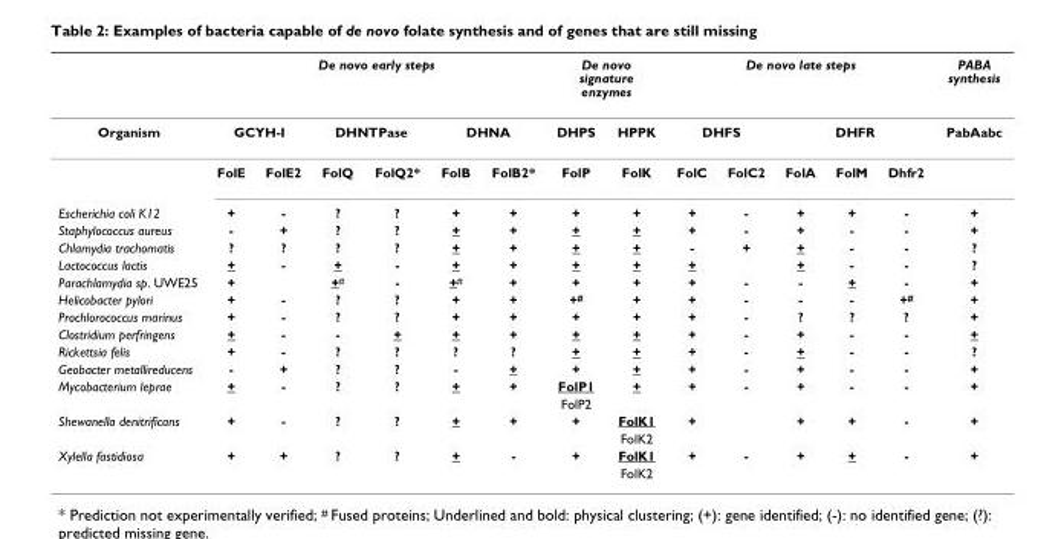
<table><thead><tr><td rowspan="3">Organism</td><td colspan="6">De novo early steps</td><td colspan="2">De novo signature enzymes</td><td colspan="5">De novo late steps</td><td rowspan="3">PABA synthesis PabAabc</td></tr><tr><td colspan="2">GCYH-I</td><td colspan="2">DHNTPase</td><td colspan="2">DHNA</td><td rowspan="2">DHPS FolP</td><td rowspan="2">HPPK FolK</td><td colspan="2">DHFS</td><td colspan="3">DHFR</td></tr><tr><td>FolE</td><td>FolE2</td><td>FolQ</td><td>FolQ2*</td><td>FolB</td><td>FolB2*</td><td>FolC</td><td>FolC2</td><td>FolA</td><td>FolM</td><td>Dhfr2</td></tr></thead><tbody><tr><td>Escherichia coli K12</td><td>+</td><td>-</td><td>?</td><td>?</td><td>+</td><td>+</td><td>+</td><td>+</td><td>+</td><td>-</td><td>+</td><td>+</td><td>-</td><td>+</td></tr><tr><td>Staphylococcus aureus</td><td>-</td><td>+</td><td>?</td><td>?</td><td>+</td><td>+</td><td>+</td><td>+</td><td>+</td><td>-</td><td>+</td><td>-</td><td>-</td><td>+</td></tr><tr><td>Chlamydia trachomatis</td><td>?</td><td>?</td><td>?</td><td>?</td><td>+</td><td>+</td><td>+</td><td>+</td><td>-</td><td>+</td><td>+</td><td>-</td><td>-</td><td>?</td></tr><tr><td>Lactococcus lactis</td><td>+</td><td>-</td><td>+</td><td>-</td><td>+</td><td>+</td><td>+</td><td>+</td><td>+</td><td></td><td>+</td><td>-</td><td>-</td><td>?</td></tr><tr><td>Parachlamydia sp. UWE25</td><td>+</td><td></td><td>+<sup>#</sup></td><td>-</td><td>+<sup>#</sup></td><td>+</td><td>+</td><td>+</td><td>+</td><td>-</td><td>-</td><td>+</td><td>-</td><td>+</td></tr><tr><td>Helicobacter pylori</td><td>+</td><td>-</td><td>?</td><td>?</td><td>+</td><td>+</td><td>+<sup>#</sup></td><td>+</td><td>+</td><td>-</td><td>-</td><td>-</td><td>+<sup>#</sup></td><td>+</td></tr><tr><td>Prochlorococcus marinus</td><td>+</td><td>-</td><td>?</td><td>?</td><td>+</td><td>+</td><td>+</td><td>+</td><td>+</td><td>-</td><td>?</td><td>?</td><td>?</td><td>+</td></tr><tr><td>Clostridium perfringens</td><td>+</td><td>-</td><td>-</td><td>+</td><td>+</td><td>+</td><td>+</td><td>+</td><td>+</td><td>-</td><td>+</td><td>-</td><td>-</td><td>+</td></tr><tr><td>Rickettsia felis</td><td>+</td><td>-</td><td>?</td><td>?</td><td>?</td><td>?</td><td>+</td><td>+</td><td>+</td><td>-</td><td>+</td><td>-</td><td>-</td><td>?</td></tr><tr><td>Geobacter metallireducens</td><td>-</td><td>+</td><td>?</td><td>?</td><td>-</td><td>+</td><td>+</td><td>+</td><td>+</td><td>-</td><td>+</td><td>-</td><td>-</td><td>+</td></tr><tr><td rowspan="2">Mycobacterium leprae</td><td>+</td><td>-</td><td>?</td><td>?</td><td>+</td><td>+</td><td>FolP1</td><td>+</td><td>+</td><td>-</td><td>+</td><td>-</td><td>-</td><td>+</td></tr><tr><td></td><td></td><td></td><td></td><td></td><td></td><td>FolP2</td><td></td><td></td><td></td><td></td><td></td><td></td><td></td></tr><tr><td rowspan="2">Shewanella denitrificans</td><td>+</td><td>-</td><td>?</td><td>?</td><td>+</td><td>+</td><td>+</td><td>FolK1</td><td>+</td><td></td><td>+</td><td>+</td><td>-</td><td>+</td></tr><tr><td></td><td></td><td></td><td></td><td></td><td></td><td></td><td>FolK2</td><td></td><td></td><td></td><td></td><td></td><td></td></tr><tr><td rowspan="2">Xylella fastidiosa</td><td>+</td><td>+</td><td>?</td><td>?</td><td>+</td><td>-</td><td>+</td><td>FolK1</td><td>+</td><td>-</td><td>+</td><td>+</td><td>-</td><td>+</td></tr><tr><td></td><td></td><td></td><td></td><td></td><td></td><td></td><td>FolK2</td><td></td><td></td><td></td><td></td><td></td><td></td></tr></tbody></table>